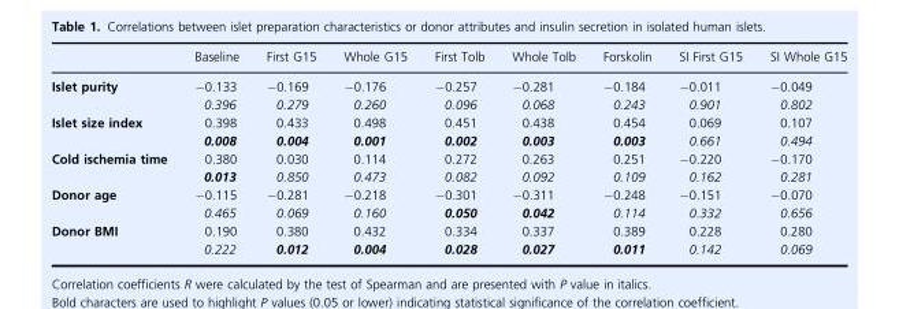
<table><thead><tr><td></td><td>Baseline</td><td>First G15</td><td>Whole G15</td><td>First Tolb</td><td>Whole Tolb</td><td>Forskolin</td><td>SI First G15</td><td>SI Whole G15</td></tr></thead><tbody><tr><td>Islet purity</td><td>−0.133 0.396</td><td>−0.169 0.279</td><td>−0.176 0.260</td><td>−0.257 0.096</td><td>−0.281 0.068</td><td>−0.184 0.243</td><td>−0.011 0.901</td><td>−0.049 0.802</td></tr><tr><td>Islet size index</td><td>0.398 0.008</td><td>0.433 0.004</td><td>0.498 0.001</td><td>0.451 0.002</td><td>0.438 0.003</td><td>0.454 0.003</td><td>0.069 0.661</td><td>0.107 0.494</td></tr><tr><td>Cold ischemia time</td><td>0.380 0.013</td><td>0.030 0.850</td><td>0.114 0.473</td><td>0.272 0.082</td><td>0.263 0.092</td><td>0.251 0.109</td><td>−0.220 0.162</td><td>−0.170 0.281</td></tr><tr><td>Donor age</td><td>−0.115 0.465</td><td>−0.281 0.069</td><td>−0.218 0.160</td><td>−0.301 0.050</td><td>−0.311 0.042</td><td>−0.248 0.114</td><td>−0.151 0.332</td><td>−0.070 0.656</td></tr><tr><td>Donor BMI</td><td>0.190 0.222</td><td>0.380 0.012</td><td>0.432 0.004</td><td>0.334 0.028</td><td>0.337 0.027</td><td>0.389 0.011</td><td>0.228 0.142</td><td>0.280 0.069</td></tr></tbody></table>